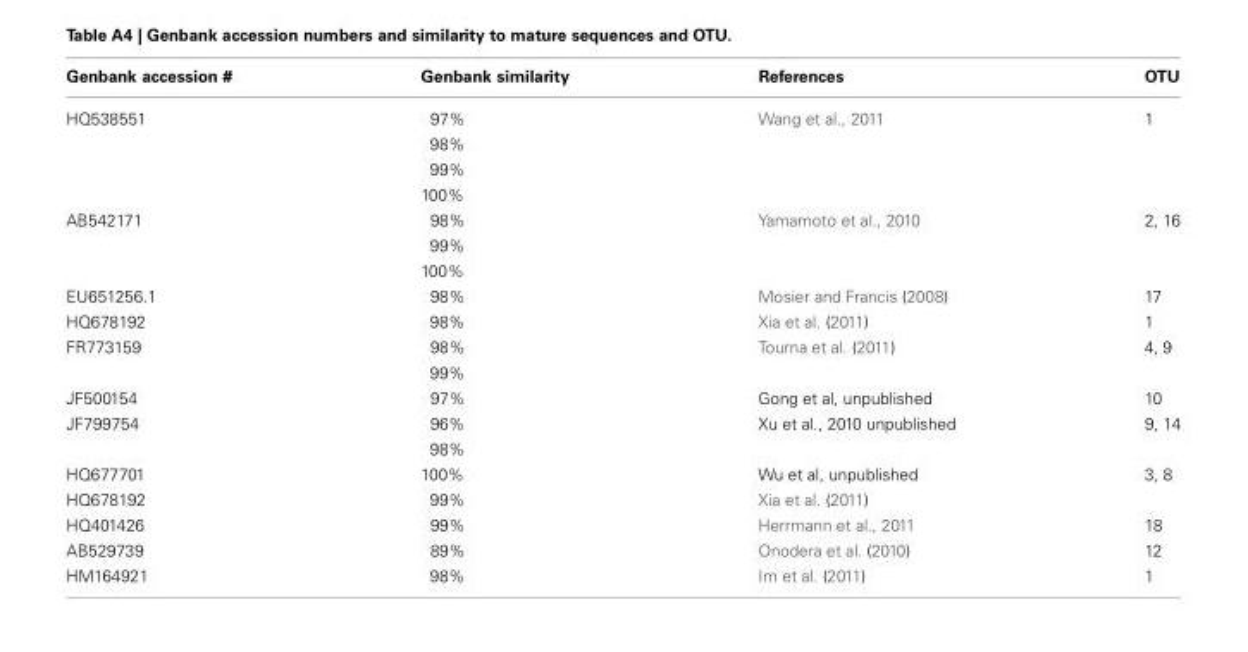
<table><thead><tr><td>Genbank accession #</td><td>Genbank similarity</td><td>References</td><td>OTU</td></tr></thead><tbody><tr><td rowspan="4">HQ538551</td><td>97%</td><td>Wang et al., 2011</td><td>1</td></tr><tr><td>98%</td><td></td><td></td></tr><tr><td>99%</td><td></td><td></td></tr><tr><td>100%</td><td></td><td></td></tr><tr><td rowspan="3">AB542171</td><td>98%</td><td>Yamamoto et al., 2010</td><td>2, 16</td></tr><tr><td>99%</td><td></td><td></td></tr><tr><td>100%</td><td></td><td></td></tr><tr><td>EU651256.1</td><td>98%</td><td>Mosier and Francis (2008)</td><td>17</td></tr><tr><td>HQ678192</td><td>98%</td><td>Xia et al. (2011)</td><td>1</td></tr><tr><td rowspan="2">FR773159</td><td>98%</td><td>Tourna et al. (2011)</td><td>4, 9</td></tr><tr><td>99%</td><td></td><td></td></tr><tr><td>JF500154</td><td>97%</td><td>Gong et al, unpublished</td><td>10</td></tr><tr><td rowspan="2">JF799754</td><td>96%</td><td>Xu et al., 2010 unpublished</td><td>9, 14</td></tr><tr><td>98%</td><td></td><td></td></tr><tr><td>HQ677701</td><td>100%</td><td>Wu et al, unpublished</td><td>3, 8</td></tr><tr><td>HQ678192</td><td>99%</td><td>Xia et al. (2011)</td><td></td></tr><tr><td>HQ401426</td><td>99%</td><td>Herrmann et al., 2011</td><td>18</td></tr><tr><td>AB529739</td><td>89%</td><td>Onodera et al. (2010)</td><td>12</td></tr><tr><td>HM164921</td><td>98%</td><td>Im et al. (2011)</td><td>1</td></tr></tbody></table>